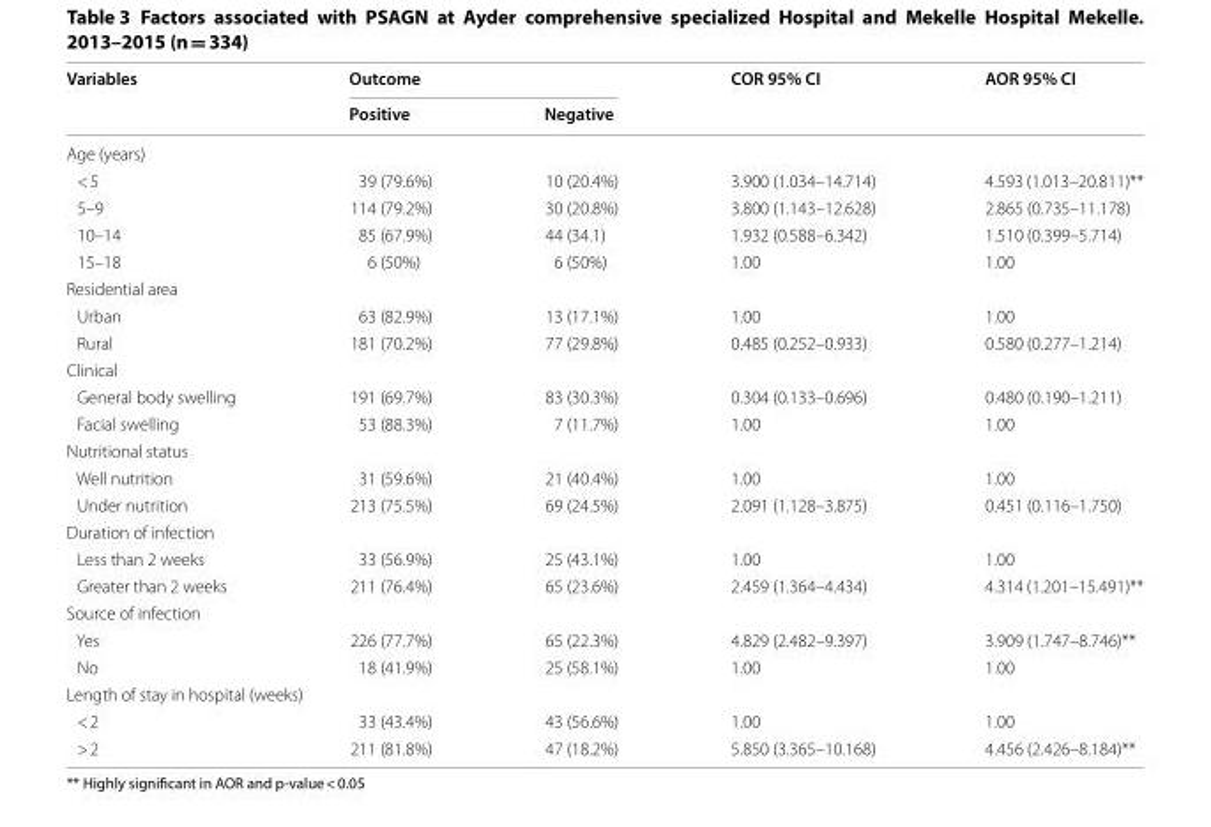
<table><thead><tr><td rowspan="2">Variables</td><td colspan="2">Outcome</td><td rowspan="2">COR 95% CI</td><td rowspan="2">AOR 95% CI</td></tr><tr><td>Positive</td><td>Negative</td></tr></thead><tbody><tr><td colspan="5">Age (years)</td></tr><tr><td>&lt; 5</td><td>39 (79.6%)</td><td>10 (20.4%)</td><td>3.900 (1.034–14.714)</td><td>4.593 (1.013–20.811)**</td></tr><tr><td>5–9</td><td>114 (79.2%)</td><td>30 (20.8%)</td><td>3.800 (1.143–12.628)</td><td>2.865 (0.735–11.178)</td></tr><tr><td>10–14</td><td>85 (67.9%)</td><td>44 (34.1)</td><td>1.932 (0.588–6.342)</td><td>1.510 (0.399–5.714)</td></tr><tr><td>15–18</td><td>6 (50%)</td><td>6 (50%)</td><td>1.00</td><td>1.00</td></tr><tr><td colspan="5">Residential area</td></tr><tr><td>Urban</td><td>63 (82.9%)</td><td>13 (17.1%)</td><td>1.00</td><td>1.00</td></tr><tr><td>Rural</td><td>181 (70.2%)</td><td>77 (29.8%)</td><td>0.485 (0.252–0.933)</td><td>0.580 (0.277–1.214)</td></tr><tr><td colspan="5">Clinical</td></tr><tr><td>General body swelling</td><td>191 (69.7%)</td><td>83 (30.3%)</td><td>0.304 (0.133–0.696)</td><td>0.480 (0.190–1.211)</td></tr><tr><td>Facial swelling</td><td>53 (88.3%)</td><td>7 (11.7%)</td><td>1.00</td><td>1.00</td></tr><tr><td colspan="5">Nutritional status</td></tr><tr><td>Well nutrition</td><td>31 (59.6%)</td><td>21 (40.4%)</td><td>1.00</td><td>1.00</td></tr><tr><td>Under nutrition</td><td>213 (75.5%)</td><td>69 (24.5%)</td><td>2.091 (1.128–3.875)</td><td>0.451 (0.116–1.750)</td></tr><tr><td colspan="5">Duration of infection</td></tr><tr><td>Less than 2 weeks</td><td>33 (56.9%)</td><td>25 (43.1%)</td><td>1.00</td><td>1.00</td></tr><tr><td>Greater than 2 weeks</td><td>211 (76.4%)</td><td>65 (23.6%)</td><td>2.459 (1.364–4.434)</td><td>4.314 (1.201–15.491)**</td></tr><tr><td colspan="5">Source of infection</td></tr><tr><td>Yes</td><td>226 (77.7%)</td><td>65 (22.3%)</td><td>4.829 (2.482–9.397)</td><td>3.909 (1.747–8.746)**</td></tr><tr><td>No</td><td>18 (41.9%)</td><td>25 (58.1%)</td><td>1.00</td><td>1.00</td></tr><tr><td colspan="5">Length of stay in hospital (weeks)</td></tr><tr><td>&lt; 2</td><td>33 (43.4%)</td><td>43 (56.6%)</td><td>1.00</td><td>1.00</td></tr><tr><td>&gt; 2</td><td>211 (81.8%)</td><td>47 (18.2%)</td><td>5.850 (3.365–10.168)</td><td>4.456 (2.426–8.184)**</td></tr></tbody></table>